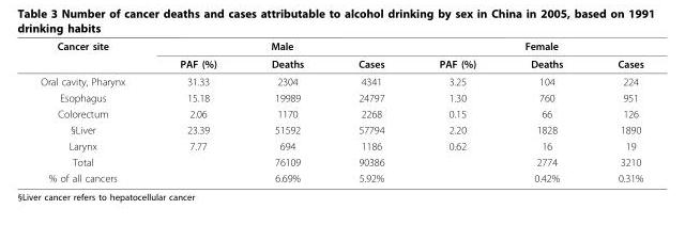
<table><thead><tr><td rowspan="2">Cancer site</td><td colspan="3">Male</td><td colspan="3">Female</td></tr><tr><td>PAF (%)</td><td>Deaths</td><td>Cases</td><td>PAF (%)</td><td>Deaths</td><td>Cases</td></tr></thead><tbody><tr><td>Oral cavity, Pharynx</td><td>31.33</td><td>2304</td><td>4341</td><td>3.25</td><td>104</td><td>224</td></tr><tr><td>Esophagus</td><td>15.18</td><td>19989</td><td>24797</td><td>1.30</td><td>760</td><td>951</td></tr><tr><td>Colorectum</td><td>2.06</td><td>1170</td><td>2268</td><td>0.15</td><td>66</td><td>126</td></tr><tr><td>§Liver</td><td>23.39</td><td>51592</td><td>57794</td><td>2.20</td><td>1828</td><td>1890</td></tr><tr><td>Larynx</td><td>7.77</td><td>694</td><td>1186</td><td>0.62</td><td>16</td><td>19</td></tr><tr><td>Total</td><td></td><td>76109</td><td>90386</td><td></td><td>2774</td><td>3210</td></tr><tr><td>% of all cancers</td><td></td><td>6.69%</td><td>5.92%</td><td></td><td>0.42%</td><td>0.31%</td></tr></tbody></table>